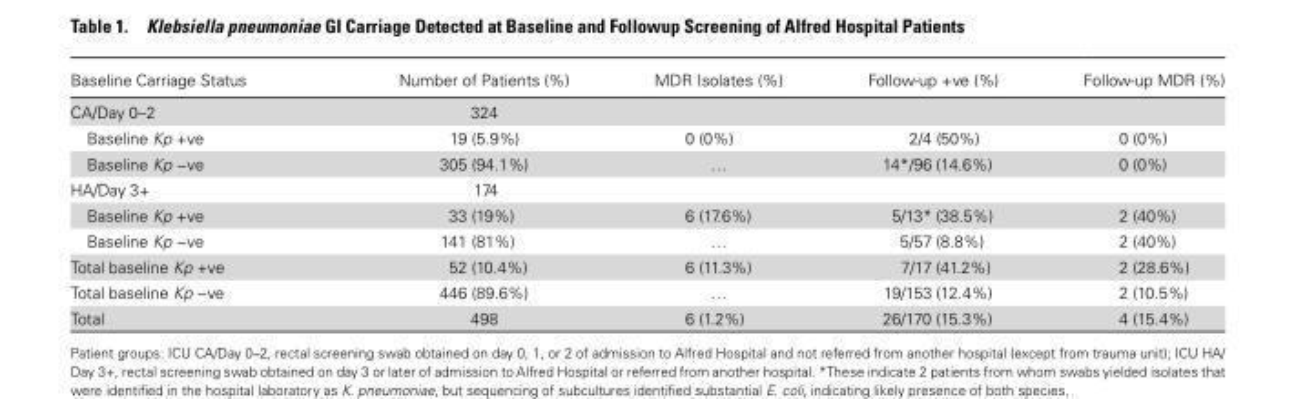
<table><thead><tr><td>Baseline Carriage Status</td><td>Number of Patients (%)</td><td>MDR Isolates (%)</td><td>Follow-up +ve (%)</td><td>Follow-up MDR (%)</td></tr></thead><tbody><tr><td>CA/Day 0–2</td><td>324</td><td></td><td></td><td></td></tr><tr><td>Baseline Kp +ve</td><td>19 (5.9%)</td><td>0 (0%)</td><td>2/4 (50%)</td><td>0 (0%)</td></tr><tr><td>Baseline Kp −ve</td><td>305 (94.1%)</td><td>…</td><td>14*/96 (14.6%)</td><td>0 (0%)</td></tr><tr><td>HA/Day 3+</td><td>174</td><td></td><td></td><td></td></tr><tr><td>Baseline Kp +ve</td><td>33 (19%)</td><td>6 (17.6%)</td><td>5/13* (38.5%)</td><td>2 (40%)</td></tr><tr><td>Baseline Kp −ve</td><td>141 (81%)</td><td>…</td><td>5/57 (8.8%)</td><td>2 (40%)</td></tr><tr><td>Total baseline Kp +ve</td><td>52 (10.4%)</td><td>6 (11.3%)</td><td>7/17 (41.2%)</td><td>2 (28.6%)</td></tr><tr><td>Total baseline Kp −ve</td><td>446 (89.6%)</td><td>…</td><td>19/153 (12.4%)</td><td>2 (10.5%)</td></tr><tr><td>Total</td><td>498</td><td>6 (1.2%)</td><td>26/170 (15.3%)</td><td>4 (15.4%)</td></tr></tbody></table>